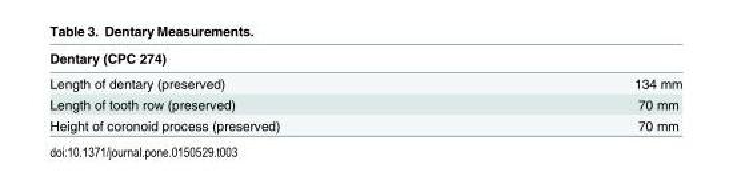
<table><thead><tr><td>Dentary (CPC 274)</td><td></td></tr></thead><tbody><tr><td>Length of dentary (preserved)</td><td>134 mm</td></tr><tr><td>Length of tooth row (preserved)</td><td>70 mm</td></tr><tr><td>Height of coronoid process (preserved)</td><td>70 mm</td></tr></tbody></table>